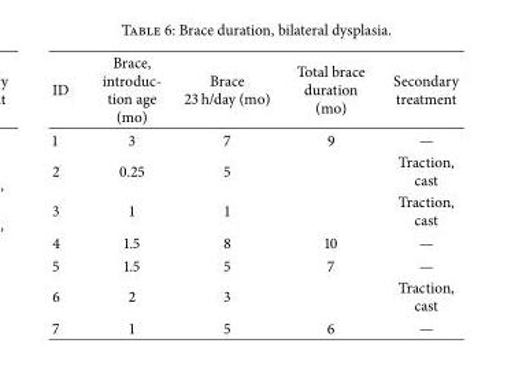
<table><thead><tr><td>ID</td><td>Brace, introduc- tion age (mo)</td><td>Brace 23 h/day (mo)</td><td>Total brace duration (mo)</td><td>Secondary treatment</td></tr></thead><tbody><tr><td>1</td><td>3</td><td>7</td><td>9</td><td>—</td></tr><tr><td>2</td><td>0.25</td><td>5</td><td></td><td>Traction, cast</td></tr><tr><td>3</td><td>1</td><td>1</td><td></td><td>Traction, cast</td></tr><tr><td>4</td><td>1.5</td><td>8</td><td>10</td><td>—</td></tr><tr><td>5</td><td>1.5</td><td>5</td><td>7</td><td>—</td></tr><tr><td>6</td><td>2</td><td>3</td><td></td><td>Traction, cast</td></tr><tr><td>7</td><td>1</td><td>5</td><td>6</td><td>—</td></tr></tbody></table>